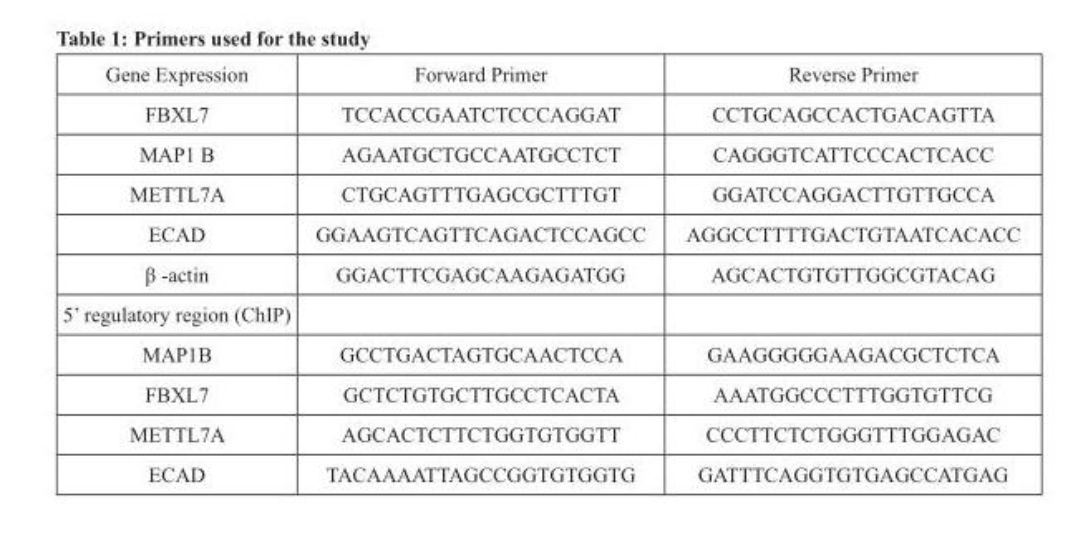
<table><thead><tr><td>Gene Expression</td><td>Forward Primer</td><td>Reverse Primer</td></tr></thead><tbody><tr><td>FBXL7</td><td>TCCACCGAATCTCCCAGGAT</td><td>CCTGCAGCCACTGACAGTTA</td></tr><tr><td>MAP1 B</td><td>AGAATGCTGCCAATGCCTCT</td><td>CAGGGTCATTCCCACTCACC</td></tr><tr><td>METTL7A</td><td>CTGCAGTTTGAGCGCTTTGT</td><td>GGATCCAGGACTTGTTGCCA</td></tr><tr><td>ECAD</td><td>GGAAGTCAGTTCAGACTCCAGCC</td><td>AGGCCTTTTGACTGTAATCACACC</td></tr><tr><td>β -actin</td><td>GGACTTCGAGCAAGAGATGG</td><td>AGCACTGTGTTGGCGTACAG</td></tr><tr><td colspan="3">5’ regulatory region (ChIP)</td></tr><tr><td>MAP1B</td><td>GCCTGACTAGTGCAACTCCA</td><td>GAAGGGGGAAGACGCTCTCA</td></tr><tr><td>FBXL7</td><td>GCTCTGTGCTTGCCTCACTA</td><td>AAATGGCCCTTTGGTGTTCG</td></tr><tr><td>METTL7A</td><td>AGCACTCTTCTGGTGTGGTT</td><td>CCCTTCTCTGGGTTTGGAGAC</td></tr><tr><td>ECAD</td><td>TACAAAATTAGCCGGTGTGGTG</td><td>GATTTCAGGTGTGAGCCATGAG</td></tr></tbody></table>